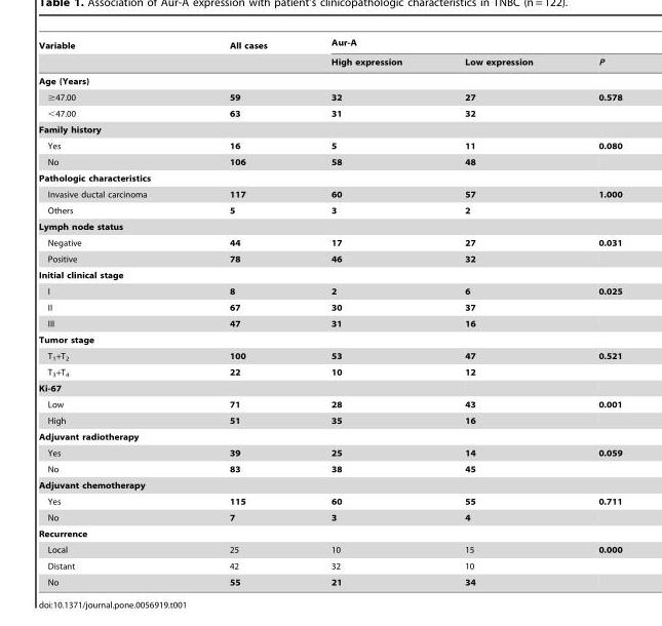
<table><thead><tr><td rowspan="2">Variable</td><td rowspan="2">All cases</td><td colspan="3">Aur-A</td></tr><tr><td>High expression</td><td>Low expression</td><td>P</td></tr></thead><tbody><tr><td colspan="5">Age (Years)</td></tr><tr><td>≥47.00</td><td>59</td><td>32</td><td>27</td><td>0.578</td></tr><tr><td>&lt;47.00</td><td>63</td><td>31</td><td>32</td><td></td></tr><tr><td colspan="5">Family history</td></tr><tr><td>Yes</td><td>16</td><td>5</td><td>11</td><td>0.080</td></tr><tr><td>No</td><td>106</td><td>58</td><td>48</td><td></td></tr><tr><td colspan="5">Pathologic characteristics</td></tr><tr><td>Invasive ductal carcinoma</td><td>117</td><td>60</td><td>57</td><td>1.000</td></tr><tr><td>Others</td><td>5</td><td>3</td><td>2</td><td></td></tr><tr><td colspan="5">Lymph node status</td></tr><tr><td>Negative</td><td>44</td><td>17</td><td>27</td><td>0.031</td></tr><tr><td>Positive</td><td>78</td><td>46</td><td>32</td><td></td></tr><tr><td colspan="5">Initial clinical stage</td></tr><tr><td>I</td><td>8</td><td>2</td><td>6</td><td>0.025</td></tr><tr><td>II</td><td>67</td><td>30</td><td>37</td><td></td></tr><tr><td>III</td><td>47</td><td>31</td><td>16</td><td></td></tr><tr><td colspan="5">Tumor stage</td></tr><tr><td>T<sub>1</sub>+T<sub>2</sub></td><td>100</td><td>53</td><td>47</td><td>0.521</td></tr><tr><td>T<sub>3</sub>+T<sub>4</sub></td><td>22</td><td>10</td><td>12</td><td></td></tr><tr><td colspan="5">Ki-67</td></tr><tr><td>Low</td><td>71</td><td>28</td><td>43</td><td>0.001</td></tr><tr><td>High</td><td>51</td><td>35</td><td>16</td><td></td></tr><tr><td colspan="5">Adjuvant radiotherapy</td></tr><tr><td>Yes</td><td>39</td><td>25</td><td>14</td><td>0.059</td></tr><tr><td>No</td><td>83</td><td>38</td><td>45</td><td></td></tr><tr><td colspan="5">Adjuvant chemotherapy</td></tr><tr><td>Yes</td><td>115</td><td>60</td><td>55</td><td>0.711</td></tr><tr><td>No</td><td>7</td><td>3</td><td>4</td><td></td></tr><tr><td colspan="5">Recurrence</td></tr><tr><td>Local</td><td>25</td><td>10</td><td>15</td><td>0.000</td></tr><tr><td>Distant</td><td>42</td><td>32</td><td>10</td><td></td></tr><tr><td>No</td><td>55</td><td>21</td><td>34</td><td></td></tr></tbody></table>